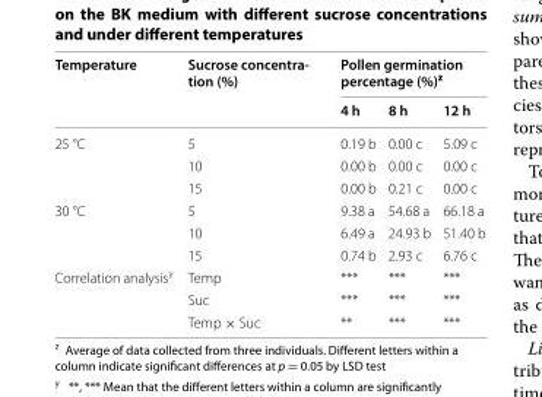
<table><thead><tr><td rowspan="2">Temperature</td><td rowspan="2">Sucrose concentra- tion (%)</td><td colspan="3">Pollen germination percentage (%)<sup>z</sup></td></tr><tr><td>4 h</td><td>8 h</td><td>12 h</td></tr></thead><tbody><tr><td rowspan="3">25 °C</td><td>5</td><td>0.19 b</td><td>0.00 c</td><td>5.09 c</td></tr><tr><td>10</td><td>0.00 b</td><td>0.00 c</td><td>0.00 c</td></tr><tr><td>15</td><td>0.00 b</td><td>0.21 c</td><td>0.00 c</td></tr><tr><td rowspan="3">30 °C</td><td>5</td><td>9.38 a</td><td>54.68 a</td><td>66.18 a</td></tr><tr><td>10</td><td>6.49 a</td><td>24.93 b</td><td>51.40 b</td></tr><tr><td>15</td><td>0.74 b</td><td>2.93 c</td><td>6.76 c</td></tr><tr><td rowspan="3">Correlation analysis<sup>y</sup></td><td>Temp</td><td>***</td><td>***</td><td>***</td></tr><tr><td>Suc</td><td>***</td><td>***</td><td>***</td></tr><tr><td>Temp × Suc</td><td>**</td><td>***</td><td>***</td></tr></tbody></table>